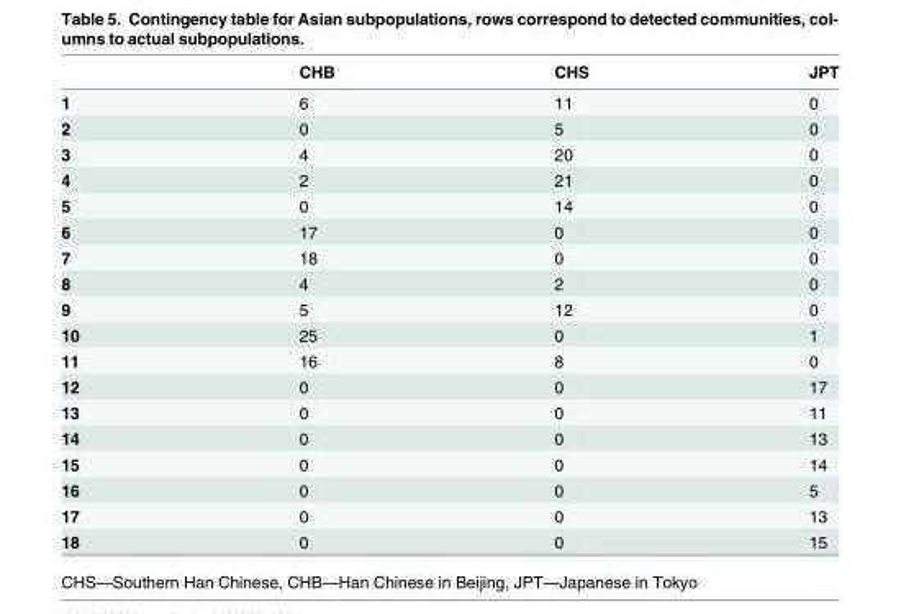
<table><thead><tr><td></td><td>CHB</td><td>CHS</td><td>JPT</td></tr></thead><tbody><tr><td>1</td><td>6</td><td>11</td><td>0</td></tr><tr><td>2</td><td>0</td><td>5</td><td>0</td></tr><tr><td>3</td><td>4</td><td>20</td><td>0</td></tr><tr><td>4</td><td>2</td><td>21</td><td>0</td></tr><tr><td>5</td><td>0</td><td>14</td><td>0</td></tr><tr><td>6</td><td>17</td><td>0</td><td>0</td></tr><tr><td>7</td><td>18</td><td>0</td><td>0</td></tr><tr><td>8</td><td>4</td><td>2</td><td>0</td></tr><tr><td>9</td><td>5</td><td>12</td><td>0</td></tr><tr><td>10</td><td>25</td><td>0</td><td>1</td></tr><tr><td>11</td><td>16</td><td>8</td><td>0</td></tr><tr><td>12</td><td>0</td><td>0</td><td>17</td></tr><tr><td>13</td><td>0</td><td>0</td><td>11</td></tr><tr><td>14</td><td>0</td><td>0</td><td>13</td></tr><tr><td>15</td><td>0</td><td>0</td><td>14</td></tr><tr><td>16</td><td>0</td><td>0</td><td>5</td></tr><tr><td>17</td><td>0</td><td>0</td><td>13</td></tr><tr><td>18</td><td>0</td><td>0</td><td>15</td></tr></tbody></table>